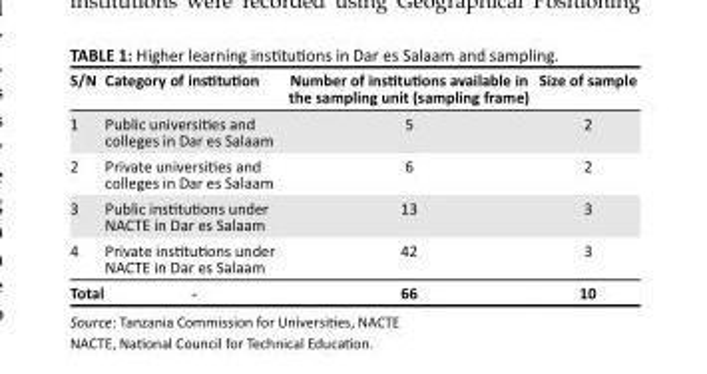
<table><thead><tr><td>S/N</td><td>Category of institution</td><td>Number of institutions available in the sampling unit (sampling frame)</td><td>Size of sample</td></tr></thead><tbody><tr><td>1</td><td>Public universities and colleges in Dar es Salaam</td><td>5</td><td>2</td></tr><tr><td>2</td><td>Private universities and colleges in Dar es Salaam</td><td>6</td><td>2</td></tr><tr><td>3</td><td>Public institutions under NACTE in Dar es Salaam</td><td>13</td><td>3</td></tr><tr><td>4</td><td>Private institutions under NACTE in Dar es Salaam</td><td>42</td><td>3</td></tr><tr><td>Total</td><td>-</td><td>66</td><td>10</td></tr></tbody></table>